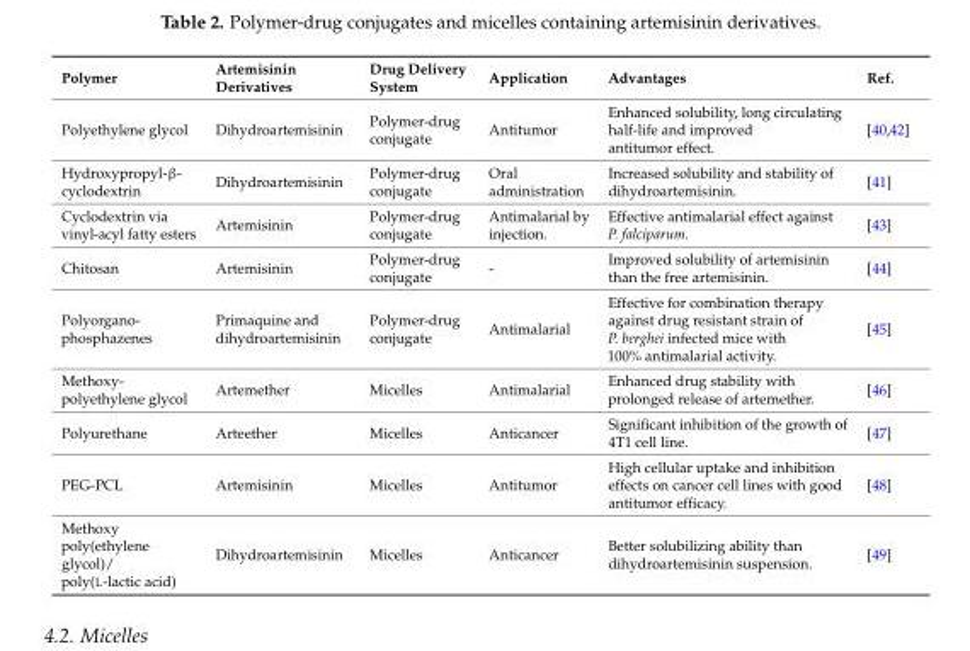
<table><thead><tr><td>Polymer</td><td>Artemisinin Derivatives</td><td>Drug Delivery System</td><td>Application</td><td>Advantages</td><td>Ref.</td></tr></thead><tbody><tr><td>Polyethylene glycol</td><td>Dihydroartemisinin</td><td>Polymer-drug conjugate</td><td>Antitumor</td><td>Enhanced solubility, long circulating half-life and improved antitumor effect.</td><td>[40,42]</td></tr><tr><td>Hydroxypropyl-β- cyclodextrin</td><td>Dihydroartemisinin</td><td>Polymer-drug conjugate</td><td>Oral administration</td><td>Increased solubility and stability of dihydroartemisinin.</td><td>[41]</td></tr><tr><td>Cyclodextrin via vinyl-acyl fatty esters</td><td>Artemisinin</td><td>Polymer-drug conjugate</td><td>Antimalarial by injection.</td><td>Effective antimalarial effect against P. falciparum.</td><td>[43]</td></tr><tr><td>Chitosan</td><td>Artemisinin</td><td>Polymer-drug conjugate</td><td>-</td><td>Improved solubility of artemisinin than the free artemisinin.</td><td>[44]</td></tr><tr><td>Polyorgano- phosphazenes</td><td>Primaquine and dihydroartemisinin</td><td>Polymer-drug conjugate</td><td>Antimalarial</td><td>Effective for combination therapy against drug resistant strain of P. berghei infected mice with 100% antimalarial activity.</td><td>[45]</td></tr><tr><td>Methoxy- polyethylene glycol</td><td>Artemether</td><td>Micelles</td><td>Antimalarial</td><td>Enhanced drug stability with prolonged release of artemether.</td><td>[46]</td></tr><tr><td>Polyurethane</td><td>Arteether</td><td>Micelles</td><td>Anticancer</td><td>Significant inhibition of the growth of 4T1 cell line.</td><td>[47]</td></tr><tr><td>PEG-PCL</td><td>Artemisinin</td><td>Micelles</td><td>Antitumor</td><td>High cellular uptake and inhibition effects on cancer cell lines with good antitumor efficacy.</td><td>[48]</td></tr><tr><td>Methoxy poly(ethylene glycol)/ poly(L-lactic acid)</td><td>Dihydroartemisinin</td><td>Micelles</td><td>Anticancer</td><td>Better solubilizing ability than dihydroartemisinin suspension.</td><td>[49]</td></tr></tbody></table>